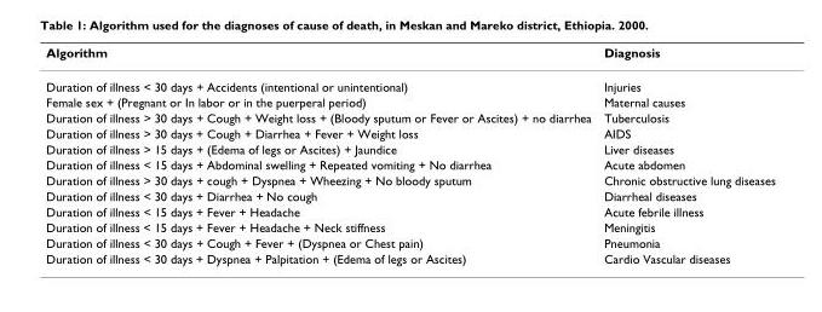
<table><thead><tr><td>Algorithm</td><td>Diagnosis</td></tr></thead><tbody><tr><td>Duration of illness &lt; 30 days + Accidents (intentional or unintentional)</td><td>Injuries</td></tr><tr><td>Female sex + (Pregnant or In labor or in the puerperal period)</td><td>Maternal causes</td></tr><tr><td>Duration of illness &gt; 30 days + Cough + Weight loss + (Bloody sputum or Fever or Ascites) + no diarrhea</td><td>Tuberculosis</td></tr><tr><td>Duration of illness &gt; 30 days + Cough + Diarrhea + Fever + Weight loss</td><td>AIDS</td></tr><tr><td>Duration of illness &gt; 15 days + (Edema of legs or Ascites) + Jaundice</td><td>Liver diseases</td></tr><tr><td>Duration of illness &lt; 15 days + Abdominal swelling + Repeated vomiting + No diarrhea</td><td>Acute abdomen</td></tr><tr><td>Duration of illness &gt; 30 days + cough + Dyspnea + Wheezing + No bloody sputum</td><td>Chronic obstructive lung diseases</td></tr><tr><td>Duration of illness &lt; 30 days + Diarrhea + No cough</td><td>Diarrheal diseases</td></tr><tr><td>Duration of illness &lt; 15 days + Fever + Headache</td><td>Acute febrile illness</td></tr><tr><td>Duration of illness &lt; 15 days + Fever + Headache + Neck stiffness</td><td>Meningitis</td></tr><tr><td>Duration of illness &lt; 30 days + Cough + Fever + (Dyspnea or Chest pain)</td><td>Pneumonia</td></tr><tr><td>Duration of illness &lt; 30 days + Dyspnea + Palpitation + (Edema of legs or Ascites)</td><td>Cardio Vascular diseases</td></tr></tbody></table>